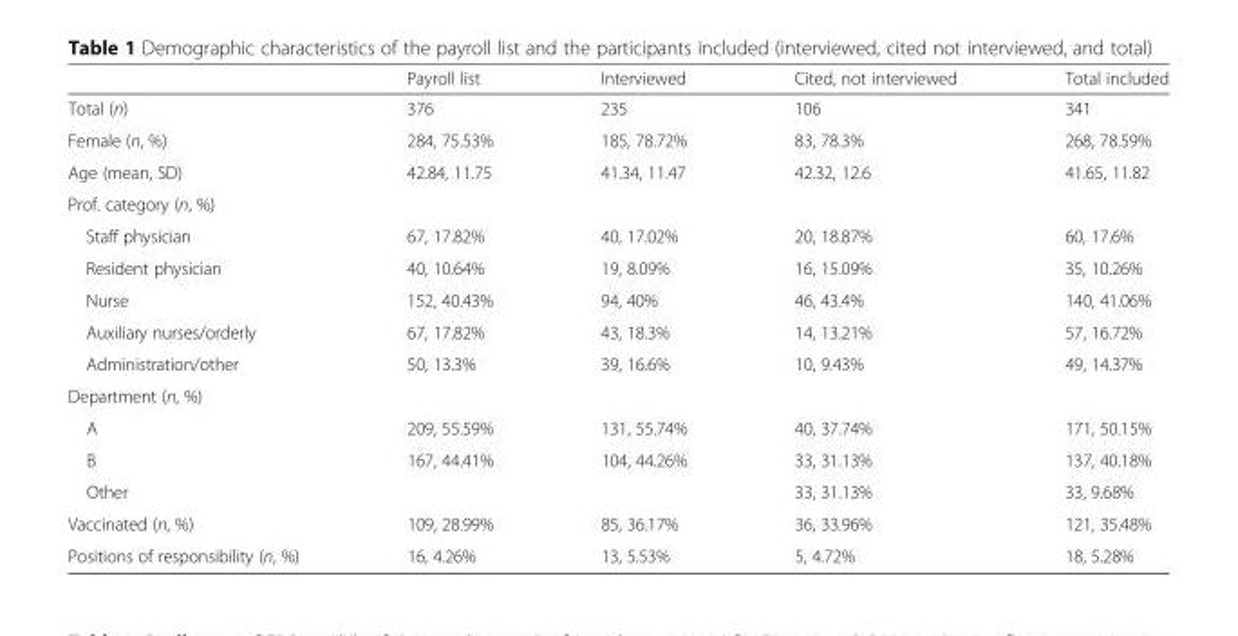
<table><thead><tr><td></td><td>Payroll list</td><td>Interviewed</td><td>Cited, not interviewed</td><td>Total included</td></tr></thead><tbody><tr><td>Total (n)</td><td>376</td><td>235</td><td>106</td><td>341</td></tr><tr><td>Female (n, %)</td><td>284, 75.53%</td><td>185, 78.72%</td><td>83, 78.3%</td><td>268, 78.59%</td></tr><tr><td>Age (mean, SD)</td><td>42.84, 11.75</td><td>41.34, 11.47</td><td>42.32, 12.6</td><td>41.65, 11.82</td></tr><tr><td colspan="5">Prof. category (n, %)</td></tr><tr><td>Staff physician</td><td>67, 17.82%</td><td>40, 17.02%</td><td>20, 18.87%</td><td>60, 17.6%</td></tr><tr><td>Resident physician</td><td>40, 10.64%</td><td>19, 8.09%</td><td>16, 15.09%</td><td>35, 10.26%</td></tr><tr><td>Nurse</td><td>152, 40.43%</td><td>94, 40%</td><td>46, 43.4%</td><td>140, 41.06%</td></tr><tr><td>Auxiliary nurses/orderly</td><td>67, 17.82%</td><td>43, 18.3%</td><td>14, 13.21%</td><td>57, 16.72%</td></tr><tr><td>Administration/other</td><td>50, 13.3%</td><td>39, 16.6%</td><td>10, 9.43%</td><td>49, 14.37%</td></tr><tr><td colspan="5">Department (n, %)</td></tr><tr><td>A</td><td>209, 55.59%</td><td>131, 55.74%</td><td>40, 37.74%</td><td>171, 50.15%</td></tr><tr><td>B</td><td>167, 44.41%</td><td>104, 44.26%</td><td>33, 31.13%</td><td>137, 40.18%</td></tr><tr><td>Other</td><td></td><td></td><td>33, 31.13%</td><td>33, 9.68%</td></tr><tr><td>Vaccinated (n, %)</td><td>109, 28.99%</td><td>85, 36.17%</td><td>36, 33.96%</td><td>121, 35.48%</td></tr><tr><td>Positions of responsibility (n, %)</td><td>16, 4.26%</td><td>13, 5.53%</td><td>5, 4.72%</td><td>18, 5.28%</td></tr></tbody></table>